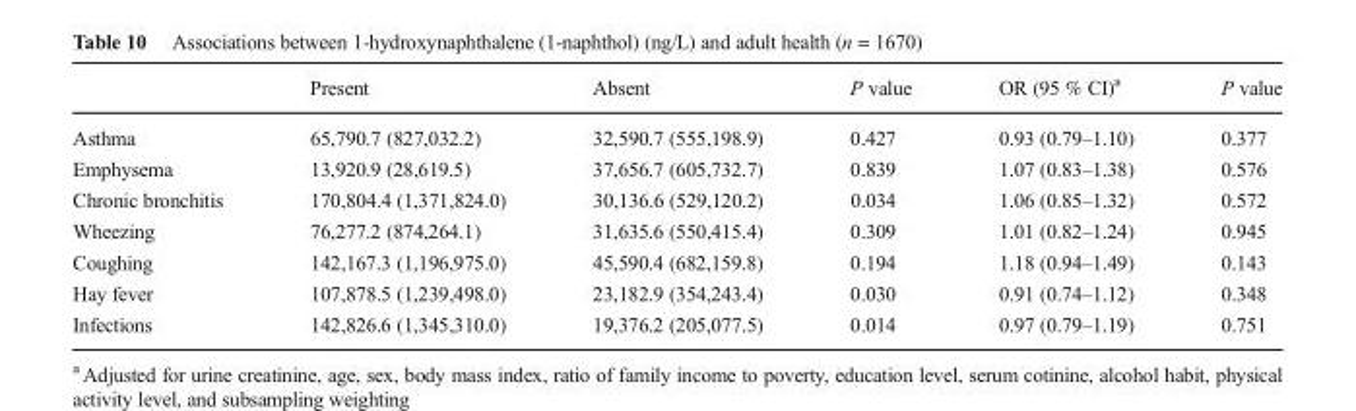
<table><thead><tr><td></td><td>Present</td><td>Absent</td><td>P value</td><td>OR (95 % CI)<sup>a</sup></td><td>P value</td></tr></thead><tbody><tr><td>Asthma</td><td>65,790.7 (827,032.2)</td><td>32,590.7 (555,198.9)</td><td>0.427</td><td>0.93 (0.79–1.10)</td><td>0.377</td></tr><tr><td>Emphysema</td><td>13,920.9 (28,619.5)</td><td>37,656.7 (605,732.7)</td><td>0.839</td><td>1.07 (0.83–1.38)</td><td>0.576</td></tr><tr><td>Chronic bronchitis</td><td>170,804.4 (1,371,824.0)</td><td>30,136.6 (529,120.2)</td><td>0.034</td><td>1.06 (0.85–1.32)</td><td>0.572</td></tr><tr><td>Wheezing</td><td>76,277.2 (874,264.1)</td><td>31,635.6 (550,415.4)</td><td>0.309</td><td>1.01 (0.82–1.24)</td><td>0.945</td></tr><tr><td>Coughing</td><td>142,167.3 (1,196,975.0)</td><td>45,590.4 (682,159.8)</td><td>0.194</td><td>1.18 (0.94–1.49)</td><td>0.143</td></tr><tr><td>Hay fever</td><td>107,878.5 (1,239,498.0)</td><td>23,182.9 (354,243.4)</td><td>0.030</td><td>0.91 (0.74–1.12)</td><td>0.348</td></tr><tr><td>Infections</td><td>142,826.6 (1,345,310.0)</td><td>19,376.2 (205,077.5)</td><td>0.014</td><td>0.97 (0.79–1.19)</td><td>0.751</td></tr></tbody></table>